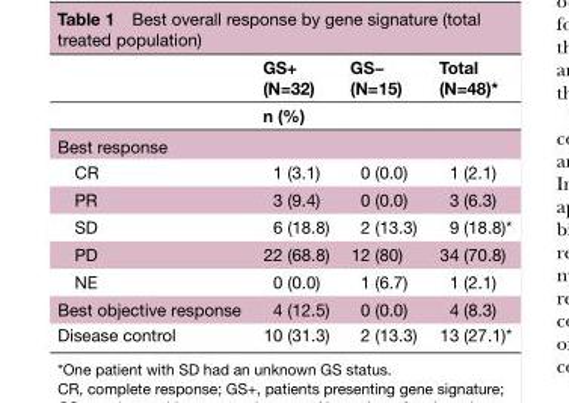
<table><thead><tr><td rowspan="2"></td><td>GS+ (N=32)</td><td>GS− (N=15)</td><td>Total (N=48)*</td></tr><tr><td colspan="3">n (%)</td></tr></thead><tbody><tr><td colspan="4">Best response</td></tr><tr><td>CR</td><td>1 (3.1)</td><td>0 (0.0)</td><td>1 (2.1)</td></tr><tr><td>PR</td><td>3 (9.4)</td><td>0 (0.0)</td><td>3 (6.3)</td></tr><tr><td>SD</td><td>6 (18.8)</td><td>2 (13.3)</td><td>9 (18.8)*</td></tr><tr><td>PD</td><td>22 (68.8)</td><td>12 (80)</td><td>34 (70.8)</td></tr><tr><td>NE</td><td>0 (0.0)</td><td>1 (6.7)</td><td>1 (2.1)</td></tr><tr><td>Best objective response</td><td>4 (12.5)</td><td>0 (0.0)</td><td>4 (8.3)</td></tr><tr><td>Disease control</td><td>10 (31.3)</td><td>2 (13.3)</td><td>13 (27.1)*</td></tr></tbody></table>